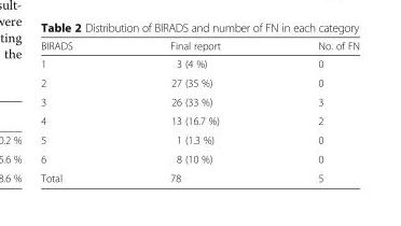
<table><thead><tr><td>BIRADS</td><td>Final report</td><td>No. of FN</td></tr></thead><tbody><tr><td>1</td><td>3 (4 %)</td><td>0</td></tr><tr><td>2</td><td>27 (35 %)</td><td>0</td></tr><tr><td>3</td><td>26 (33 %)</td><td>3</td></tr><tr><td>4</td><td>13 (16.7 %)</td><td>2</td></tr><tr><td>5</td><td>1 (1.3 %)</td><td>0</td></tr><tr><td>6</td><td>8 (10 %)</td><td>0</td></tr><tr><td>Total</td><td>78</td><td>5</td></tr></tbody></table>